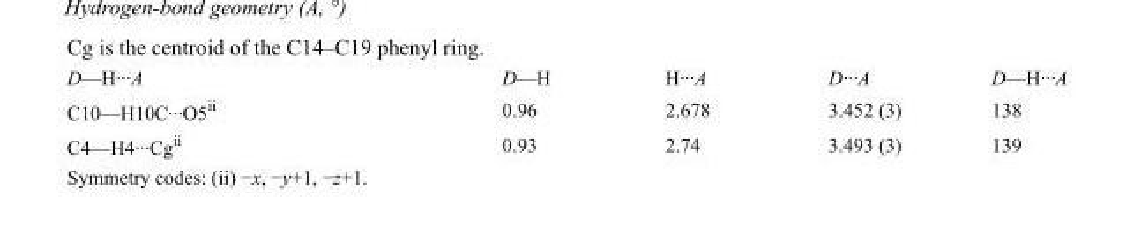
<table><tbody><tr><td>D—H···A</td><td>D—H</td><td>H···A</td><td>D···A</td><td>D—H···A</td></tr><tr><td>C10—H10C···O5<sup>ii</sup></td><td>0.96</td><td>2.678</td><td>3.452 (3)</td><td>138</td></tr><tr><td>C4—H4···Cg<sup>ii</sup></td><td>0.93</td><td>2.74</td><td>3.493 (3)</td><td>139</td></tr></tbody></table>